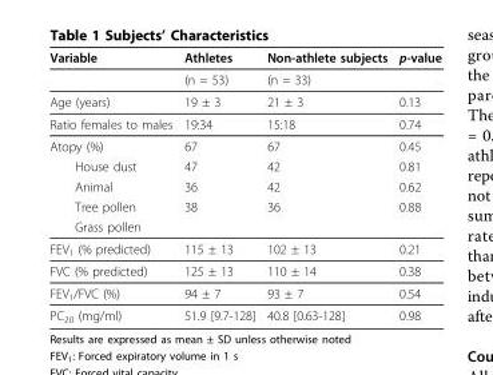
<table><thead><tr><td>Variable</td><td>Athletes</td><td>Non-athlete subjects</td><td>p-value</td></tr></thead><tbody><tr><td></td><td>(n = 53)</td><td>(n = 33)</td><td></td></tr><tr><td>Age (years)</td><td>19 ± 3</td><td>21 ± 3</td><td>0.13</td></tr><tr><td>Ratio females to males</td><td>19:34</td><td>15:18</td><td>0.74</td></tr><tr><td>Atopy (%)</td><td>67</td><td>67</td><td>0.45</td></tr><tr><td>House dust</td><td>47</td><td>42</td><td>0.81</td></tr><tr><td>Animal</td><td>36</td><td>42</td><td>0.62</td></tr><tr><td>Tree pollen</td><td>38</td><td>36</td><td>0.88</td></tr><tr><td colspan="4">Grass pollen</td></tr><tr><td>FEV<sub>1</sub> (% predicted)</td><td>115 ± 13</td><td>102 ± 13</td><td>0.21</td></tr><tr><td>FVC (% predicted)</td><td>125 ± 13</td><td>110 ± 14</td><td>0.38</td></tr><tr><td>FEV<sub>1</sub>/FVC (%)</td><td>94 ± 7</td><td>93 ± 7</td><td>0.54</td></tr><tr><td>PC<sub>20</sub> (mg/ml)</td><td>51.9 [9.7-128]</td><td>40.8 [0.63-128]</td><td>0.98</td></tr></tbody></table>